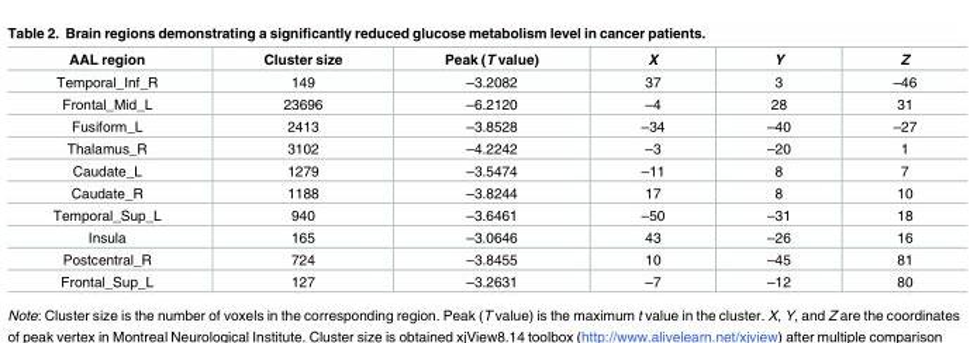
<table><thead><tr><td>AAL region</td><td>Cluster size</td><td>Peak (T value)</td><td>X</td><td>Y</td><td>Z</td></tr></thead><tbody><tr><td>Temporal_Inf_R</td><td>149</td><td>–3.2082</td><td>37</td><td>3</td><td>–46</td></tr><tr><td>Frontal_Mid_L</td><td>23696</td><td>–6.2120</td><td>–4</td><td>28</td><td>31</td></tr><tr><td>Fusiform_L</td><td>2413</td><td>–3.8528</td><td>–34</td><td>–40</td><td>–27</td></tr><tr><td>Thalamus_R</td><td>3102</td><td>–4.2242</td><td>–3</td><td>–20</td><td>1</td></tr><tr><td>Caudate_L</td><td>1279</td><td>–3.5474</td><td>–11</td><td>8</td><td>7</td></tr><tr><td>Caudate_R</td><td>1188</td><td>–3.8244</td><td>17</td><td>8</td><td>10</td></tr><tr><td>Temporal_Sup_L</td><td>940</td><td>–3.6461</td><td>–50</td><td>–31</td><td>18</td></tr><tr><td>Insula</td><td>165</td><td>–3.0646</td><td>43</td><td>–26</td><td>16</td></tr><tr><td>Postcentral_R</td><td>724</td><td>–3.8455</td><td>10</td><td>–45</td><td>81</td></tr><tr><td>Frontal_Sup_L</td><td>127</td><td>–3.2631</td><td>–7</td><td>–12</td><td>80</td></tr></tbody></table>